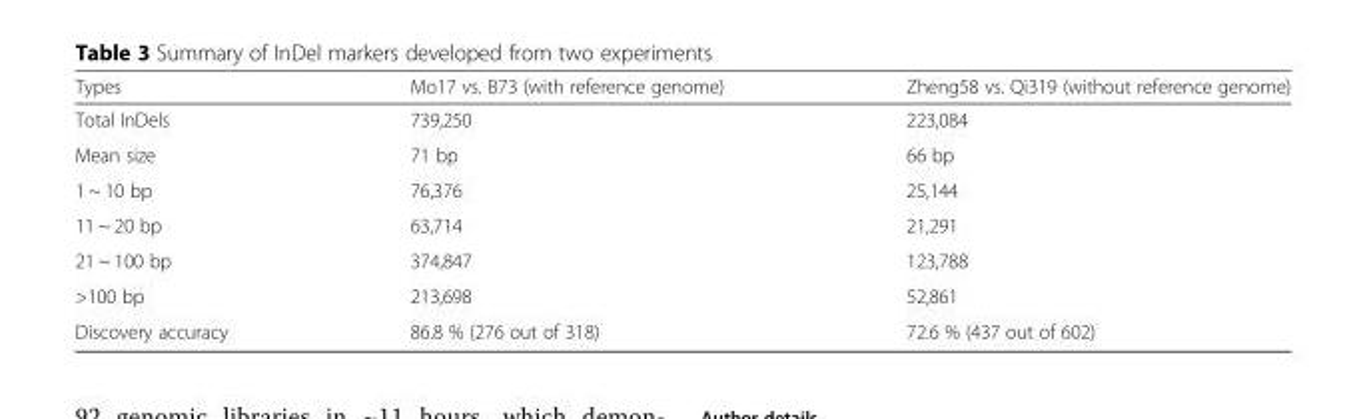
<table><thead><tr><td>Types</td><td>Mo17 vs. B73 (with reference genome)</td><td>Zheng58 vs. Qi319 (without reference genome)</td></tr></thead><tbody><tr><td>Total InDels</td><td>739,250</td><td>223,084</td></tr><tr><td>Mean size</td><td>71 bp</td><td>66 bp</td></tr><tr><td>1 ~ 10 bp</td><td>76,376</td><td>25,144</td></tr><tr><td>11 ~ 20 bp</td><td>63,714</td><td>21,291</td></tr><tr><td>21 ~ 100 bp</td><td>374,847</td><td>123,788</td></tr><tr><td>&gt;100 bp</td><td>213,698</td><td>52,861</td></tr><tr><td>Discovery accuracy</td><td>86.8 % (276 out of 318)</td><td>72.6 % (437 out of 602)</td></tr></tbody></table>